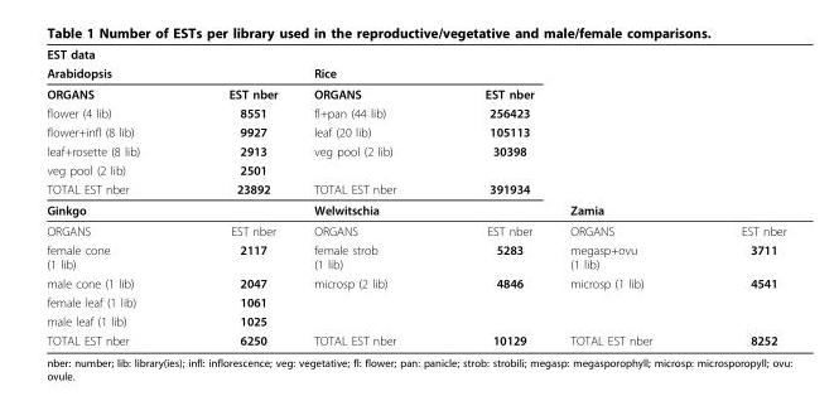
<table><tbody><tr><td colspan="6">EST data</td></tr><tr><td colspan="2">Arabidopsis</td><td colspan="2">Rice</td><td></td><td></td></tr><tr><td>ORGANS</td><td>EST nber</td><td>ORGANS</td><td>EST nber</td><td></td><td></td></tr><tr><td>flower (4 lib)</td><td>8551</td><td>fl+pan (44 lib)</td><td>256423</td><td></td><td></td></tr><tr><td>flower+infl (8 lib)</td><td>9927</td><td>leaf (20 lib)</td><td>105113</td><td></td><td></td></tr><tr><td>leaf+rosette (8 lib)</td><td>2913</td><td>veg pool (2 lib)</td><td>30398</td><td></td><td></td></tr><tr><td>veg pool (2 lib)</td><td>2501</td><td></td><td></td><td></td><td></td></tr><tr><td>TOTAL EST nber</td><td>23892</td><td>TOTAL EST nber</td><td>391934</td><td></td><td></td></tr><tr><td colspan="2">Ginkgo</td><td colspan="2">Welwitschia</td><td colspan="2">Zamia</td></tr><tr><td>ORGANS</td><td>EST nber</td><td>ORGANS</td><td>EST nber</td><td>ORGANS</td><td>EST nber</td></tr><tr><td>female cone (1 lib)</td><td>2117</td><td>female strob (1 lib)</td><td>5283</td><td>megasp+ovu (1 lib)</td><td>3711</td></tr><tr><td>male cone (1 lib)</td><td>2047</td><td>microsp (2 lib)</td><td>4846</td><td>microsp (1 lib)</td><td>4541</td></tr><tr><td>female leaf (1 lib)</td><td>1061</td><td></td><td></td><td></td><td></td></tr><tr><td>male leaf (1 lib)</td><td>1025</td><td></td><td></td><td></td><td></td></tr><tr><td>TOTAL EST nber</td><td>6250</td><td>TOTAL EST nber</td><td>10129</td><td>TOTAL EST nber</td><td>8252</td></tr></tbody></table>